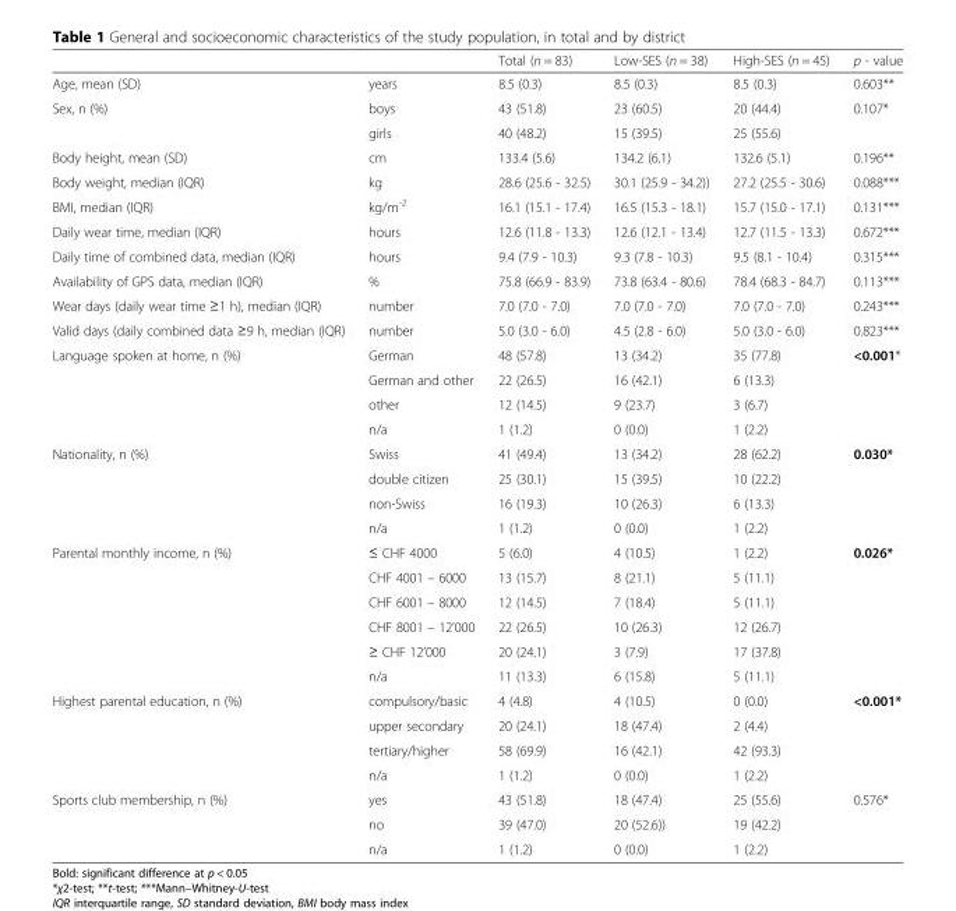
<table><thead><tr><td></td><td></td><td>Total (n = 83)</td><td>Low-SES (n = 38)</td><td>High-SES (n = 45)</td><td>p - value</td></tr></thead><tbody><tr><td>Age, mean (SD)</td><td>years</td><td>8.5 (0.3)</td><td>8.5 (0.3)</td><td>8.5 (0.3)</td><td>0.603**</td></tr><tr><td rowspan="2">Sex, n (%)</td><td>boys</td><td>43 (51.8)</td><td>23 (60.5)</td><td>20 (44.4)</td><td rowspan="2">0.107*</td></tr><tr><td>girls</td><td>40 (48.2)</td><td>15 (39.5)</td><td>25 (55.6)</td></tr><tr><td>Body height, mean (SD)</td><td>cm</td><td>133.4 (5.6)</td><td>134.2 (6.1)</td><td>132.6 (5.1)</td><td>0.196**</td></tr><tr><td>Body weight, median (IQR)</td><td>kg</td><td>28.6 (25.6 - 32.5)</td><td>30.1 (25.9 - 34.2))</td><td>27.2 (25.5 - 30.6)</td><td>0.088***</td></tr><tr><td>BMI, median (IQR)</td><td>kg/m<sup>-2</sup></td><td>16.1 (15.1 - 17.4)</td><td>16.5 (15.3 - 18.1)</td><td>15.7 (15.0 - 17.1)</td><td>0.131***</td></tr><tr><td>Daily wear time, median (IQR)</td><td>hours</td><td>12.6 (11.8 - 13.3)</td><td>12.6 (12.1 - 13.4)</td><td>12.7 (11.5 - 13.3)</td><td>0.672***</td></tr><tr><td>Daily time of combined data, median (IQR)</td><td>hours</td><td>9.4 (7.9 - 10.3)</td><td>9.3 (7.8 - 10.3)</td><td>9.5 (8.1 - 10.4)</td><td>0.315***</td></tr><tr><td>Availability of GPS data, median (IQR)</td><td>%</td><td>75.8 (66.9 - 83.9)</td><td>73.8 (63.4 - 80.6)</td><td>78.4 (68.3 - 84.7)</td><td>0.113***</td></tr><tr><td>Wear days (daily wear time ≥1 h), median (IQR)</td><td>number</td><td>7.0 (7.0 - 7.0)</td><td>7.0 (7.0 - 7.0)</td><td>7.0 (7.0 - 7.0)</td><td>0.243***</td></tr><tr><td>Valid days (daily combined data ≥9 h, median (IQR)</td><td>number</td><td>5.0 (3.0 - 6.0)</td><td>4.5 (2.8 - 6.0)</td><td>5.0 (3.0 - 6.0)</td><td>0.823***</td></tr><tr><td rowspan="4">Language spoken at home, n (%)</td><td>German</td><td>48 (57.8)</td><td>13 (34.2)</td><td>35 (77.8)</td><td rowspan="4">&lt;0.001*</td></tr><tr><td>German and other</td><td>22 (26.5)</td><td>16 (42.1)</td><td>6 (13.3)</td></tr><tr><td>other</td><td>12 (14.5)</td><td>9 (23.7)</td><td>3 (6.7)</td></tr><tr><td>n/a</td><td>1 (1.2)</td><td>0 (0.0)</td><td>1 (2.2)</td></tr><tr><td rowspan="4">Nationality, n (%)</td><td>Swiss</td><td>41 (49.4)</td><td>13 (34.2)</td><td>28 (62.2)</td><td rowspan="4">0.030*</td></tr><tr><td>double citizen</td><td>25 (30.1)</td><td>15 (39.5)</td><td>10 (22.2)</td></tr><tr><td>non-Swiss</td><td>16 (19.3)</td><td>10 (26.3)</td><td>6 (13.3)</td></tr><tr><td>n/a</td><td>1 (1.2)</td><td>0 (0.0)</td><td>1 (2.2)</td></tr><tr><td rowspan="6">Parental monthly income, n (%)</td><td>≤ CHF 4000</td><td>5 (6.0)</td><td>4 (10.5)</td><td>1 (2.2)</td><td rowspan="6">0.026*</td></tr><tr><td>CHF 4001 – 6000</td><td>13 (15.7)</td><td>8 (21.1)</td><td>5 (11.1)</td></tr><tr><td>CHF 6001 – 8000</td><td>12 (14.5)</td><td>7 (18.4)</td><td>5 (11.1)</td></tr><tr><td>CHF 8001 – 12’000</td><td>22 (26.5)</td><td>10 (26.3)</td><td>12 (26.7)</td></tr><tr><td>≥ CHF 12’000</td><td>20 (24.1)</td><td>3 (7.9)</td><td>17 (37.8)</td></tr><tr><td>n/a</td><td>11 (13.3)</td><td>6 (15.8)</td><td>5 (11.1)</td></tr><tr><td rowspan="4">Highest parental education, n (%)</td><td>compulsory/basic</td><td>4 (4.8)</td><td>4 (10.5)</td><td>0 (0.0)</td><td rowspan="4">&lt;0.001*</td></tr><tr><td>upper secondary</td><td>20 (24.1)</td><td>18 (47.4)</td><td>2 (4.4)</td></tr><tr><td>tertiary/higher</td><td>58 (69.9)</td><td>16 (42.1)</td><td>42 (93.3)</td></tr><tr><td>n/a</td><td>1 (1.2)</td><td>0 (0.0)</td><td>1 (2.2)</td></tr><tr><td rowspan="3">Sports club membership, n (%)</td><td>yes</td><td>43 (51.8)</td><td>18 (47.4)</td><td>25 (55.6)</td><td rowspan="3">0.576*</td></tr><tr><td>no</td><td>39 (47.0)</td><td>20 (52.6))</td><td>19 (42.2)</td></tr><tr><td>n/a</td><td>1 (1.2)</td><td>0 (0.0)</td><td>1 (2.2)</td></tr></tbody></table>